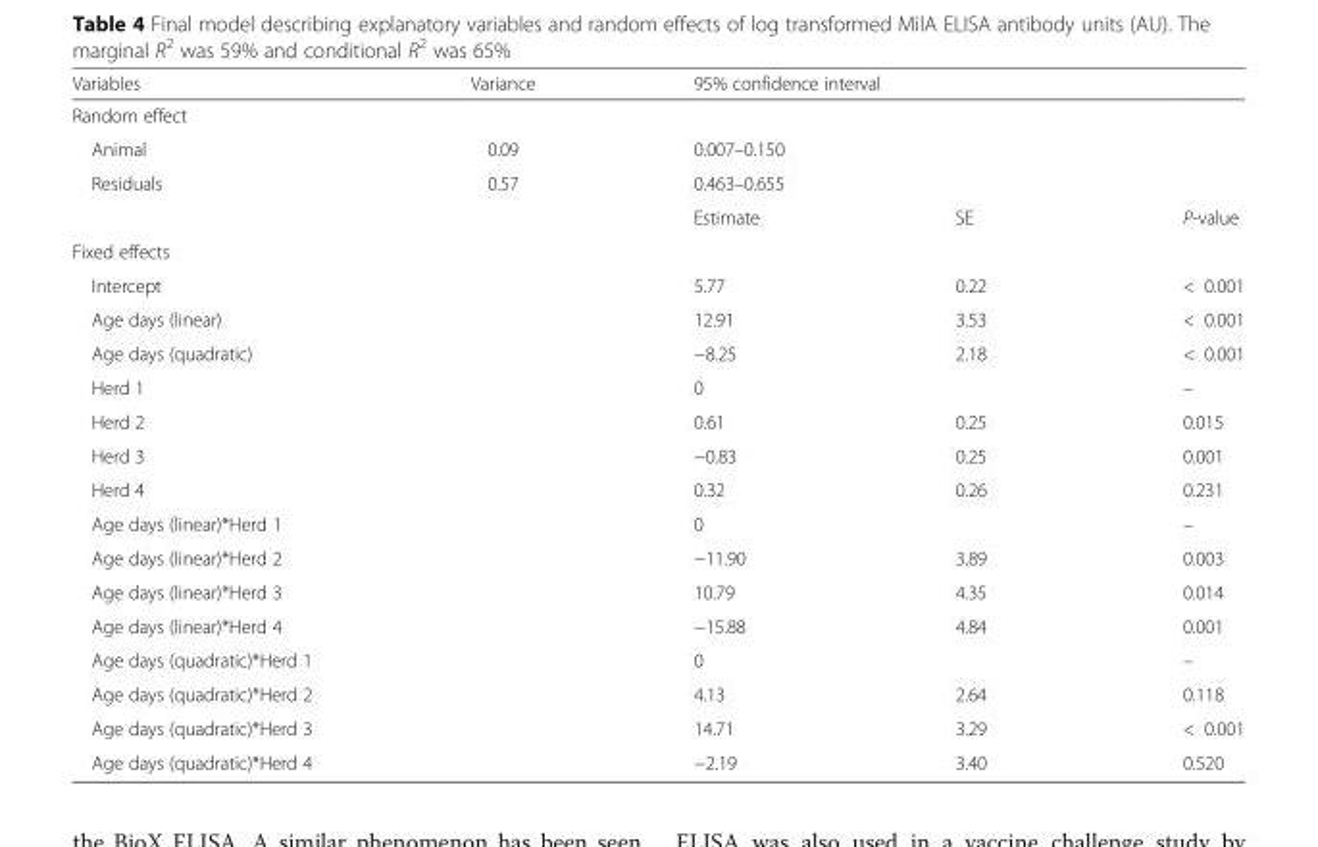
<table><thead><tr><td>Variables</td><td>Variance</td><td colspan="2">95% confidence interval</td><td></td></tr></thead><tbody><tr><td colspan="5">Random effect</td></tr><tr><td>Animal</td><td>0.09</td><td colspan="2">0.007–0.150</td><td></td></tr><tr><td rowspan="2">Residuals</td><td>0.57</td><td colspan="2">0.463–0.655</td><td></td></tr><tr><td></td><td>Estimate</td><td>SE</td><td>P-value</td></tr><tr><td colspan="5">Fixed effects</td></tr><tr><td>Intercept</td><td></td><td>5.77</td><td>0.22</td><td>&lt; 0.001</td></tr><tr><td>Age days (linear)</td><td></td><td>12.91</td><td>3.53</td><td>&lt; 0.001</td></tr><tr><td>Age days (quadratic)</td><td></td><td>−8.25</td><td>2.18</td><td>&lt; 0.001</td></tr><tr><td>Herd 1</td><td></td><td>0</td><td></td><td>–</td></tr><tr><td>Herd 2</td><td></td><td>0.61</td><td>0.25</td><td>0.015</td></tr><tr><td>Herd 3</td><td></td><td>−0.83</td><td>0.25</td><td>0.001</td></tr><tr><td>Herd 4</td><td></td><td>0.32</td><td>0.26</td><td>0.231</td></tr><tr><td>Age days (linear)*Herd 1</td><td></td><td>0</td><td></td><td>–</td></tr><tr><td>Age days (linear)*Herd 2</td><td></td><td>−11.90</td><td>3.89</td><td>0.003</td></tr><tr><td>Age days (linear)*Herd 3</td><td></td><td>10.79</td><td>4.35</td><td>0.014</td></tr><tr><td>Age days (linear)*Herd 4</td><td></td><td>−15.88</td><td>4.84</td><td>0.001</td></tr><tr><td>Age days (quadratic)*Herd 1</td><td></td><td>0</td><td></td><td>–</td></tr><tr><td>Age days (quadratic)*Herd 2</td><td></td><td>4.13</td><td>2.64</td><td>0.118</td></tr><tr><td>Age days (quadratic)*Herd 3</td><td></td><td>14.71</td><td>3.29</td><td>&lt; 0.001</td></tr><tr><td>Age days (quadratic)*Herd 4</td><td></td><td>−2.19</td><td>3.40</td><td>0.520</td></tr></tbody></table>